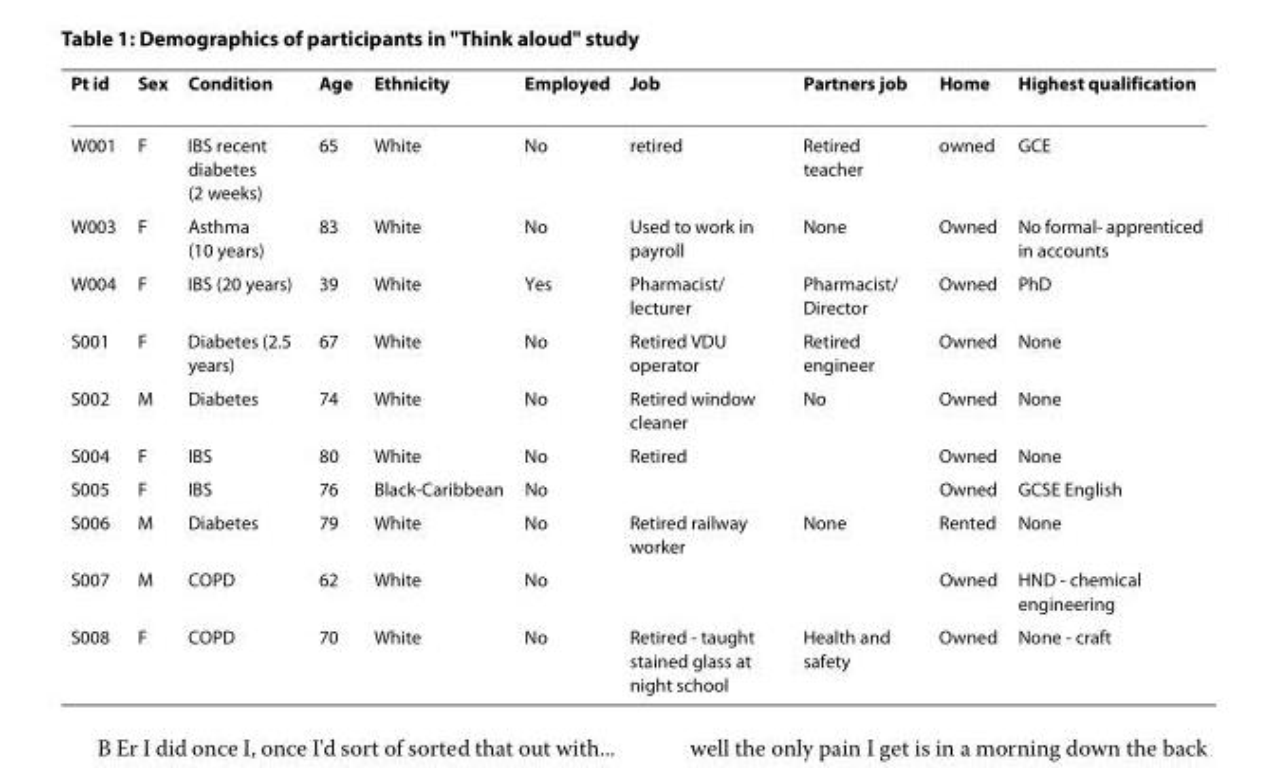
<table><thead><tr><td>Pt id</td><td>Sex</td><td>Condition</td><td>Age</td><td>Ethnicity</td><td>Employed</td><td>Job</td><td>Partners job</td><td>Home</td><td>Highest qualification</td></tr></thead><tbody><tr><td>W001</td><td>F</td><td>IBS recent diabetes (2 weeks)</td><td>65</td><td>White</td><td>No</td><td>retired</td><td>Retired teacher</td><td>owned</td><td>GCE</td></tr><tr><td>W003</td><td>F</td><td>Asthma (10 years)</td><td>83</td><td>White</td><td>No</td><td>Used to work in payroll</td><td>None</td><td>Owned</td><td>No formal- apprenticed in accounts</td></tr><tr><td>W004</td><td>F</td><td>IBS (20 years)</td><td>39</td><td>White</td><td>Yes</td><td>Pharmacist/ lecturer</td><td>Pharmacist/ Director</td><td>Owned</td><td>PhD</td></tr><tr><td>S001</td><td>F</td><td>Diabetes (2.5 years)</td><td>67</td><td>White</td><td>No</td><td>Retired VDU operator</td><td>Retired engineer</td><td>Owned</td><td>None</td></tr><tr><td>S002</td><td>M</td><td>Diabetes</td><td>74</td><td>White</td><td>No</td><td>Retired window cleaner</td><td>No</td><td>Owned</td><td>None</td></tr><tr><td>S004</td><td>F</td><td>IBS</td><td>80</td><td>White</td><td>No</td><td>Retired</td><td></td><td>Owned</td><td>None</td></tr><tr><td>S005</td><td>F</td><td>IBS</td><td>76</td><td>Black-Caribbean</td><td>No</td><td></td><td></td><td>Owned</td><td>GCSE English</td></tr><tr><td>S006</td><td>M</td><td>Diabetes</td><td>79</td><td>White</td><td>No</td><td>Retired railway worker</td><td>None</td><td>Rented</td><td>None</td></tr><tr><td>S007</td><td>M</td><td>COPD</td><td>62</td><td>White</td><td>No</td><td></td><td></td><td>Owned</td><td>HND - chemical engineering</td></tr><tr><td>S008</td><td>F</td><td>COPD</td><td>70</td><td>White</td><td>No</td><td>Retired - taught stained glass at night school</td><td>Health and safety</td><td>Owned</td><td>None - craft</td></tr></tbody></table>